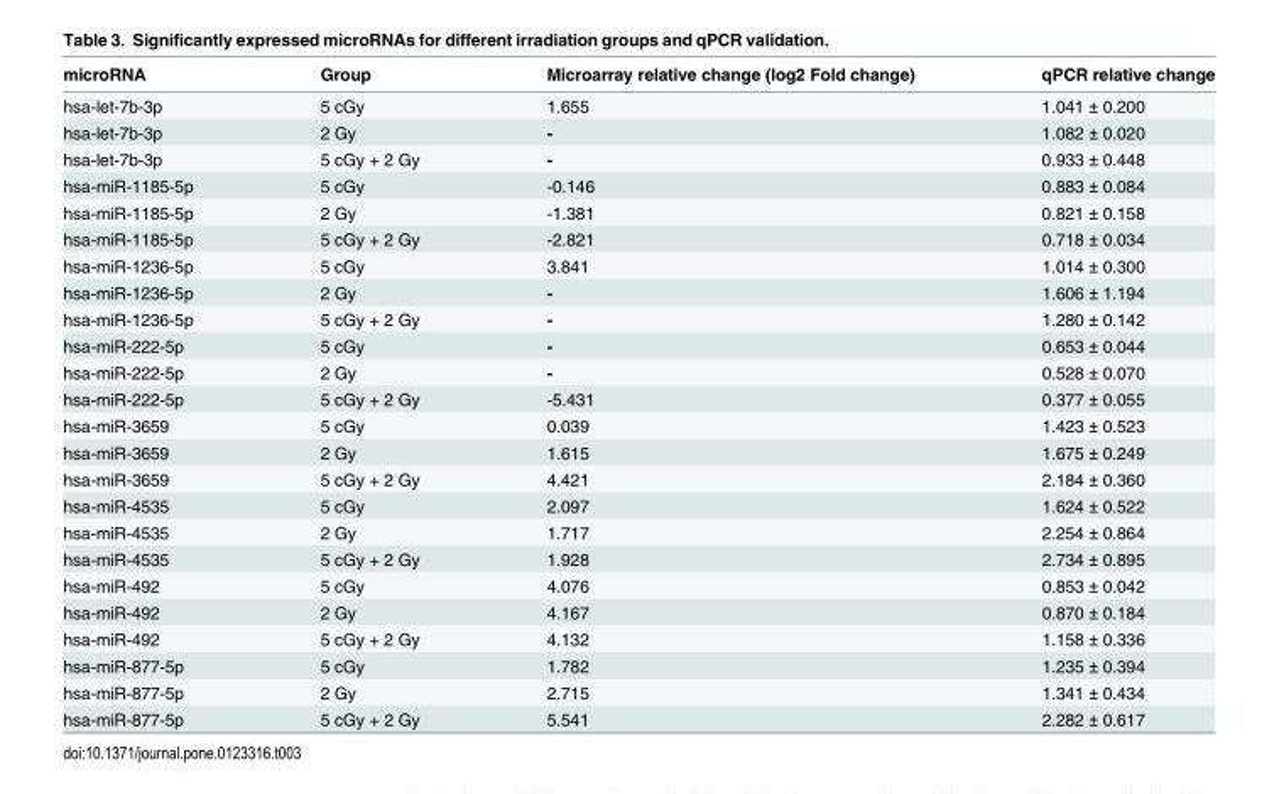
<table><thead><tr><td>microRNA</td><td>Group</td><td>Microarray relative change (log2 Fold change)</td><td>qPCR relative change</td></tr></thead><tbody><tr><td>hsa-let-7b-3p</td><td>5 cGy</td><td>1.655</td><td>1.041 ± 0.200</td></tr><tr><td>hsa-let-7b-3p</td><td>2 Gy</td><td>-</td><td>1.082 ± 0.020</td></tr><tr><td>hsa-let-7b-3p</td><td>5 cGy + 2 Gy</td><td>-</td><td>0.933 ± 0.448</td></tr><tr><td>hsa-miR-1185-5p</td><td>5 cGy</td><td>-0.146</td><td>0.883 ± 0.084</td></tr><tr><td>hsa-miR-1185-5p</td><td>2 Gy</td><td>-1.381</td><td>0.821 ± 0.158</td></tr><tr><td>hsa-miR-1185-5p</td><td>5 cGy + 2 Gy</td><td>-2.821</td><td>0.718 ± 0.034</td></tr><tr><td>hsa-miR-1236-5p</td><td>5 cGy</td><td>3.841</td><td>1.014 ± 0.300</td></tr><tr><td>hsa-miR-1236-5p</td><td>2 Gy</td><td>-</td><td>1.606 ± 1.194</td></tr><tr><td>hsa-miR-1236-5p</td><td>5 cGy + 2 Gy</td><td>-</td><td>1.280 ± 0.142</td></tr><tr><td>hsa-miR-222-5p</td><td>5 cGy</td><td>-</td><td>0.653 ± 0.044</td></tr><tr><td>hsa-miR-222-5p</td><td>2 Gy</td><td>-</td><td>0.528 ± 0.070</td></tr><tr><td>hsa-miR-222-5p</td><td>5 cGy + 2 Gy</td><td>-5.431</td><td>0.377 ± 0.055</td></tr><tr><td>hsa-miR-3659</td><td>5 cGy</td><td>0.039</td><td>1.423 ± 0.523</td></tr><tr><td>hsa-miR-3659</td><td>2 Gy</td><td>1.615</td><td>1.675 ± 0.249</td></tr><tr><td>hsa-miR-3659</td><td>5 cGy + 2 Gy</td><td>4.421</td><td>2.184 ± 0.360</td></tr><tr><td>hsa-miR-4535</td><td>5 cGy</td><td>2.097</td><td>1.624 ± 0.522</td></tr><tr><td>hsa-miR-4535</td><td>2 Gy</td><td>1.717</td><td>2.254 ± 0.864</td></tr><tr><td>hsa-miR-4535</td><td>5 cGy + 2 Gy</td><td>1.928</td><td>2.734 ± 0.895</td></tr><tr><td>hsa-miR-492</td><td>5 cGy</td><td>4.076</td><td>0.853 ± 0.042</td></tr><tr><td>hsa-miR-492</td><td>2 Gy</td><td>4.167</td><td>0.870 ± 0.184</td></tr><tr><td>hsa-miR-492</td><td>5 cGy + 2 Gy</td><td>4.132</td><td>1.158 ± 0.336</td></tr><tr><td>hsa-miR-877-5p</td><td>5 cGy</td><td>1.782</td><td>1.235 ± 0.394</td></tr><tr><td>hsa-miR-877-5p</td><td>2 Gy</td><td>2.715</td><td>1.341 ± 0.434</td></tr><tr><td>hsa-miR-877-5p</td><td>5 cGy + 2 Gy</td><td>5.541</td><td>2.282 ± 0.617</td></tr></tbody></table>